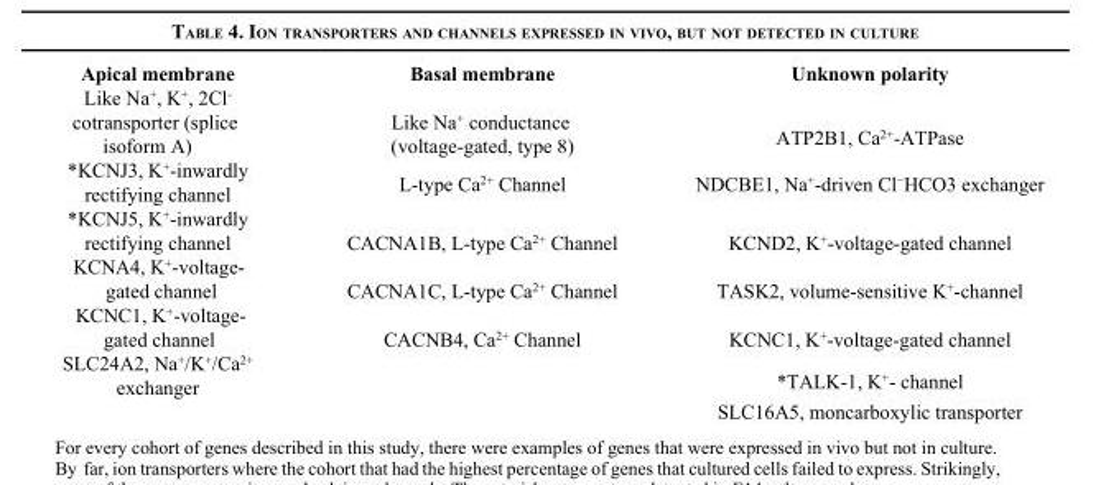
<table><thead><tr><td>Apical membrane</td><td>Basal membrane</td><td>Unknown polarity</td></tr></thead><tbody><tr><td>Like Na<sup>+</sup>, K<sup>+</sup>, 2Cl<sup>-</sup> cotransporter (splice isoform A)</td><td>Like Na<sup>+</sup> conductance (voltage-gated, type 8)</td><td>ATP2B1, Ca<sup>2+</sup>-ATPase</td></tr><tr><td>*KCNJ3, K<sup>+</sup>-inwardly rectifying channel</td><td>L-type Ca<sup>2+</sup> Channel</td><td>NDCBE1, Na<sup>+</sup>-driven Cl<sup>−</sup>HCO3 exchanger</td></tr><tr><td>*KCNJ5, K<sup>+</sup>-inwardly rectifying channel</td><td>CACNA1B, L-type Ca<sup>2+</sup> Channel</td><td>KCND2, K<sup>+</sup>-voltage-gated channel</td></tr><tr><td>KCNA4, K<sup>+</sup>-voltage- gated channel</td><td>CACNA1C, L-type Ca<sup>2+</sup> Channel</td><td>TASK2, volume-sensitive K<sup>+</sup>-channel</td></tr><tr><td>KCNC1, K<sup>+</sup>-voltage- gated channel</td><td>CACNB4, Ca<sup>2+</sup> Channel</td><td>KCNC1, K<sup>+</sup>-voltage-gated channel</td></tr><tr><td rowspan="2">SLC24A2, Na<sup>+</sup>/K<sup>+</sup>/Ca<sup>2+</sup> exchanger</td><td></td><td>*TALK-1, K<sup>+</sup>- channel</td></tr><tr><td></td><td>SLC16A5, moncarboxylic transporter</td></tr></tbody></table>